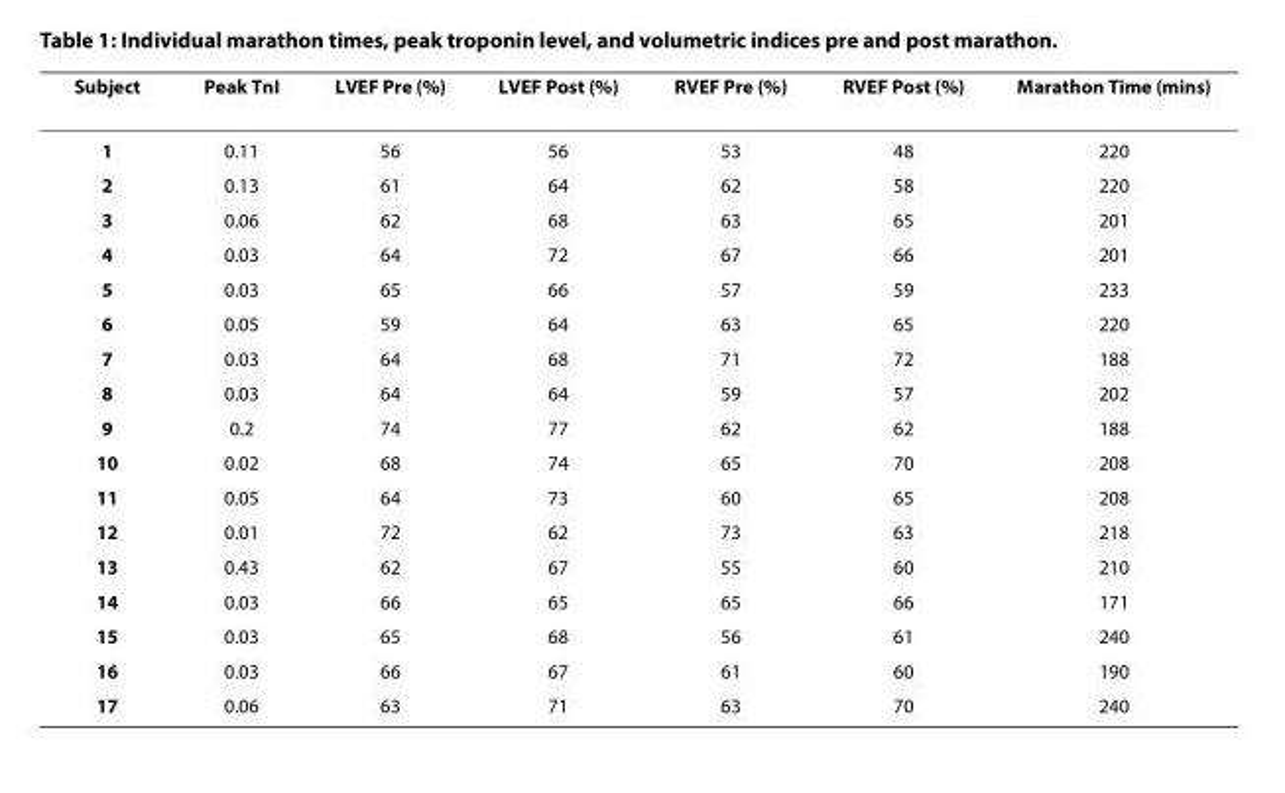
<table><thead><tr><td>Subject</td><td>Peak TnI</td><td>LVEF Pre (%)</td><td>LVEF Post (%)</td><td>RVEF Pre (%)</td><td>RVEF Post (%)</td><td>Marathon Time (mins)</td></tr></thead><tbody><tr><td>1</td><td>0.11</td><td>56</td><td>56</td><td>53</td><td>48</td><td>220</td></tr><tr><td>2</td><td>0.13</td><td>61</td><td>64</td><td>62</td><td>58</td><td>220</td></tr><tr><td>3</td><td>0.06</td><td>62</td><td>68</td><td>63</td><td>65</td><td>201</td></tr><tr><td>4</td><td>0.03</td><td>64</td><td>72</td><td>67</td><td>66</td><td>201</td></tr><tr><td>5</td><td>0.03</td><td>65</td><td>66</td><td>57</td><td>59</td><td>233</td></tr><tr><td>6</td><td>0.05</td><td>59</td><td>64</td><td>63</td><td>65</td><td>220</td></tr><tr><td>7</td><td>0.03</td><td>64</td><td>68</td><td>71</td><td>72</td><td>188</td></tr><tr><td>8</td><td>0.03</td><td>64</td><td>64</td><td>59</td><td>57</td><td>202</td></tr><tr><td>9</td><td>0.2</td><td>74</td><td>77</td><td>62</td><td>62</td><td>188</td></tr><tr><td>10</td><td>0.02</td><td>68</td><td>74</td><td>65</td><td>70</td><td>208</td></tr><tr><td>11</td><td>0.05</td><td>64</td><td>73</td><td>60</td><td>65</td><td>208</td></tr><tr><td>12</td><td>0.01</td><td>72</td><td>62</td><td>73</td><td>63</td><td>218</td></tr><tr><td>13</td><td>0.43</td><td>62</td><td>67</td><td>55</td><td>60</td><td>210</td></tr><tr><td>14</td><td>0.03</td><td>66</td><td>65</td><td>65</td><td>66</td><td>171</td></tr><tr><td>15</td><td>0.03</td><td>65</td><td>68</td><td>56</td><td>61</td><td>240</td></tr><tr><td>16</td><td>0.03</td><td>66</td><td>67</td><td>61</td><td>60</td><td>190</td></tr><tr><td>17</td><td>0.06</td><td>63</td><td>71</td><td>63</td><td>70</td><td>240</td></tr></tbody></table>